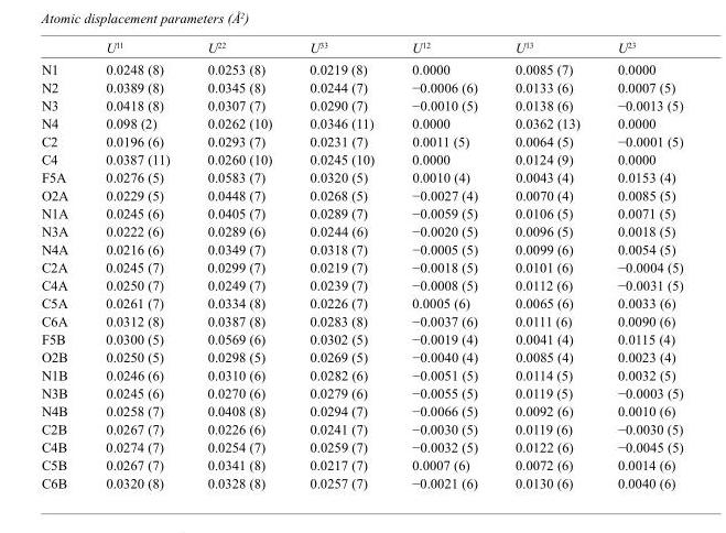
<table><thead><tr><td></td><td>U<sup>11</sup></td><td>U<sup>22</sup></td><td>U<sup>33</sup></td><td>U<sup>12</sup></td><td>U<sup>13</sup></td><td>U<sup>23</sup></td></tr></thead><tbody><tr><td>N1</td><td>0.0248 (8)</td><td>0.0253 (8)</td><td>0.0219 (8)</td><td>0.0000</td><td>0.0085 (7)</td><td>0.0000</td></tr><tr><td>N2</td><td>0.0389 (8)</td><td>0.0345 (8)</td><td>0.0244 (7)</td><td>−0.0006 (6)</td><td>0.0133 (6)</td><td>0.0007 (5)</td></tr><tr><td>N3</td><td>0.0418 (8)</td><td>0.0307 (7)</td><td>0.0290 (7)</td><td>−0.0010 (5)</td><td>0.0138 (6)</td><td>−0.0013 (5)</td></tr><tr><td>N4</td><td>0.098 (2)</td><td>0.0262 (10)</td><td>0.0346 (11)</td><td>0.0000</td><td>0.0362 (13)</td><td>0.0000</td></tr><tr><td>C2</td><td>0.0196 (6)</td><td>0.0293 (7)</td><td>0.0231 (7)</td><td>0.0011 (5)</td><td>0.0064 (5)</td><td>−0.0001 (5)</td></tr><tr><td>C4</td><td>0.0387 (11)</td><td>0.0260 (10)</td><td>0.0245 (10)</td><td>0.0000</td><td>0.0124 (9)</td><td>0.0000</td></tr><tr><td>F5A</td><td>0.0276 (5)</td><td>0.0583 (7)</td><td>0.0320 (5)</td><td>0.0010 (4)</td><td>0.0043 (4)</td><td>0.0153 (4)</td></tr><tr><td>O2A</td><td>0.0229 (5)</td><td>0.0448 (7)</td><td>0.0268 (5)</td><td>−0.0027 (4)</td><td>0.0070 (4)</td><td>0.0085 (5)</td></tr><tr><td>N1A</td><td>0.0245 (6)</td><td>0.0405 (7)</td><td>0.0289 (7)</td><td>−0.0059 (5)</td><td>0.0106 (5)</td><td>0.0071 (5)</td></tr><tr><td>N3A</td><td>0.0222 (6)</td><td>0.0289 (6)</td><td>0.0244 (6)</td><td>−0.0020 (5)</td><td>0.0096 (5)</td><td>0.0018 (5)</td></tr><tr><td>N4A</td><td>0.0216 (6)</td><td>0.0349 (7)</td><td>0.0318 (7)</td><td>−0.0005 (5)</td><td>0.0099 (6)</td><td>0.0054 (5)</td></tr><tr><td>C2A</td><td>0.0245 (7)</td><td>0.0299 (7)</td><td>0.0219 (7)</td><td>−0.0018 (5)</td><td>0.0101 (6)</td><td>−0.0004 (5)</td></tr><tr><td>C4A</td><td>0.0250 (7)</td><td>0.0249 (7)</td><td>0.0239 (7)</td><td>−0.0008 (5)</td><td>0.0112 (6)</td><td>−0.0031 (5)</td></tr><tr><td>C5A</td><td>0.0261 (7)</td><td>0.0334 (8)</td><td>0.0226 (7)</td><td>0.0005 (6)</td><td>0.0065 (6)</td><td>0.0033 (6)</td></tr><tr><td>C6A</td><td>0.0312 (8)</td><td>0.0387 (8)</td><td>0.0283 (8)</td><td>−0.0037 (6)</td><td>0.0111 (6)</td><td>0.0090 (6)</td></tr><tr><td>F5B</td><td>0.0300 (5)</td><td>0.0569 (6)</td><td>0.0302 (5)</td><td>−0.0019 (4)</td><td>0.0041 (4)</td><td>0.0115 (4)</td></tr><tr><td>O2B</td><td>0.0250 (5)</td><td>0.0298 (5)</td><td>0.0269 (5)</td><td>−0.0040 (4)</td><td>0.0085 (4)</td><td>0.0023 (4)</td></tr><tr><td>N1B</td><td>0.0246 (6)</td><td>0.0310 (6)</td><td>0.0282 (6)</td><td>−0.0051 (5)</td><td>0.0114 (5)</td><td>0.0032 (5)</td></tr><tr><td>N3B</td><td>0.0245 (6)</td><td>0.0270 (6)</td><td>0.0279 (6)</td><td>−0.0055 (5)</td><td>0.0119 (5)</td><td>−0.0003 (5)</td></tr><tr><td>N4B</td><td>0.0258 (7)</td><td>0.0408 (8)</td><td>0.0294 (7)</td><td>−0.0066 (5)</td><td>0.0092 (6)</td><td>0.0010 (6)</td></tr><tr><td>C2B</td><td>0.0267 (7)</td><td>0.0226 (6)</td><td>0.0241 (7)</td><td>−0.0030 (5)</td><td>0.0119 (6)</td><td>−0.0030 (5)</td></tr><tr><td>C4B</td><td>0.0274 (7)</td><td>0.0254 (7)</td><td>0.0259 (7)</td><td>−0.0032 (5)</td><td>0.0122 (6)</td><td>−0.0045 (5)</td></tr><tr><td>C5B</td><td>0.0267 (7)</td><td>0.0341 (8)</td><td>0.0217 (7)</td><td>0.0007 (6)</td><td>0.0072 (6)</td><td>0.0014 (6)</td></tr><tr><td>C6B</td><td>0.0320 (8)</td><td>0.0328 (8)</td><td>0.0257 (7)</td><td>−0.0021 (6)</td><td>0.0130 (6)</td><td>0.0040 (6)</td></tr></tbody></table>